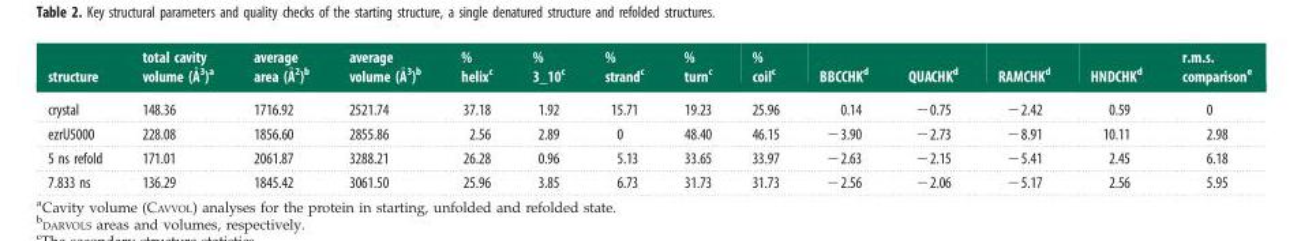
<table><thead><tr><td>structure</td><td>total cavity volume (A˚3)a</td><td>average area (A˚2)b</td><td>average volume (A˚3)b</td><td>% helix<sup>c</sup></td><td>% 3_10<sup>c</sup></td><td>% strand<sup>c</sup></td><td>% turn<sup>c</sup></td><td>% coil<sup>c</sup></td><td>BBCCHK<sup>d</sup></td><td>QUACHK<sup>d</sup></td><td>RAMCHK<sup>d</sup></td><td>HNDCHK<sup>d</sup></td><td>r.m.s. comparison<sup>e</sup></td></tr></thead><tbody><tr><td>crystal</td><td>148.36</td><td>1716.92</td><td>2521.74</td><td>37.18</td><td>1.92</td><td>15.71</td><td>19.23</td><td>25.96</td><td>0.14</td><td>−0.75</td><td>−2.42</td><td>0.59</td><td>0</td></tr><tr><td>ezrU5000</td><td>228.08</td><td>1856.60</td><td>2855.86</td><td>2.56</td><td>2.89</td><td>0</td><td>48.40</td><td>46.15</td><td>−3.90</td><td>−2.73</td><td>−8.91</td><td>10.11</td><td>2.98</td></tr><tr><td>5 ns refold</td><td>171.01</td><td>2061.87</td><td>3288.21</td><td>26.28</td><td>0.96</td><td>5.13</td><td>33.65</td><td>33.97</td><td>−2.63</td><td>−2.15</td><td>−5.41</td><td>2.45</td><td>6.18</td></tr><tr><td>7.833 ns</td><td>136.29</td><td>1845.42</td><td>3061.50</td><td>25.96</td><td>3.85</td><td>6.73</td><td>31.73</td><td>31.73</td><td>−2.56</td><td>−2.06</td><td>−5.17</td><td>2.56</td><td>5.95</td></tr></tbody></table>